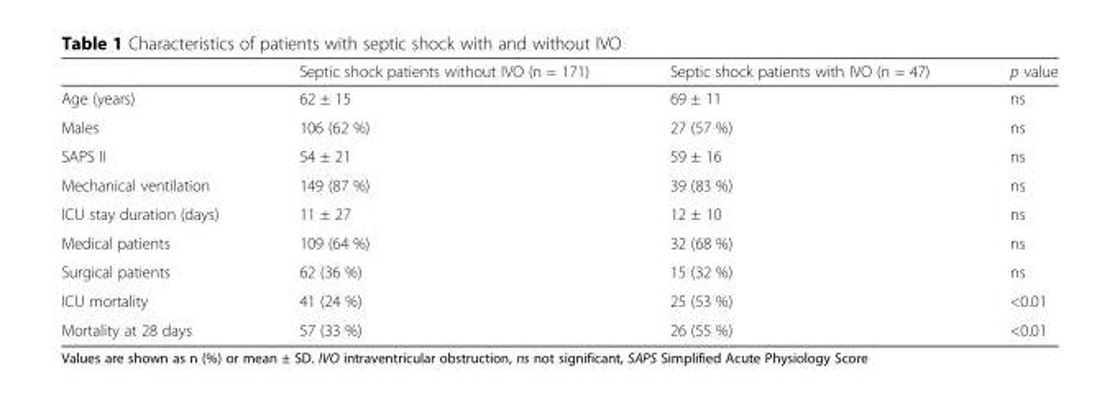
<table><thead><tr><td></td><td>Septic shock patients without IVO (n = 171)</td><td>Septic shock patients with IVO (n = 47)</td><td>p value</td></tr></thead><tbody><tr><td>Age (years)</td><td>62 ± 15</td><td>69 ± 11</td><td>ns</td></tr><tr><td>Males</td><td>106 (62 %)</td><td>27 (57 %)</td><td>ns</td></tr><tr><td>SAPS II</td><td>54 ± 21</td><td>59 ± 16</td><td>ns</td></tr><tr><td>Mechanical ventilation</td><td>149 (87 %)</td><td>39 (83 %)</td><td>ns</td></tr><tr><td>ICU stay duration (days)</td><td>11 ± 27</td><td>12 ± 10</td><td>ns</td></tr><tr><td>Medical patients</td><td>109 (64 %)</td><td>32 (68 %)</td><td>ns</td></tr><tr><td>Surgical patients</td><td>62 (36 %)</td><td>15 (32 %)</td><td>ns</td></tr><tr><td>ICU mortality</td><td>41 (24 %)</td><td>25 (53 %)</td><td>&lt;0.01</td></tr><tr><td>Mortality at 28 days</td><td>57 (33 %)</td><td>26 (55 %)</td><td>&lt;0.01</td></tr></tbody></table>